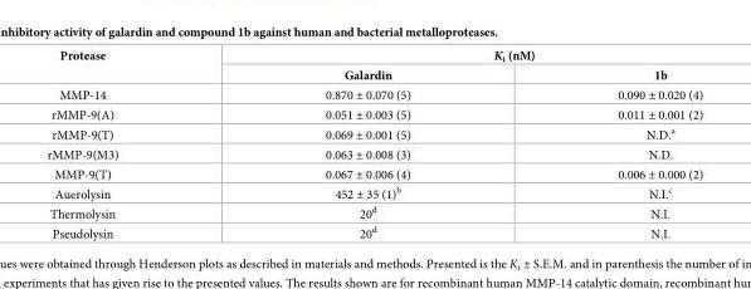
<table><thead><tr><td rowspan="2">Protease</td><td colspan="2">K<sub>i</sub> (nM)</td></tr><tr><td>Galardin</td><td>1b</td></tr></thead><tbody><tr><td>MMP-14</td><td>0.870 ± 0.070 (5)</td><td>0.090 ± 0.020 (4)</td></tr><tr><td>rMMP-9(A)</td><td>0.051 ± 0.003 (5)</td><td>0.011 ± 0.001 (2)</td></tr><tr><td>rMMP-9(T)</td><td>0.069 ± 0.001 (5)</td><td>N.D.<sup>a</sup></td></tr><tr><td>rMMP-9(M3)</td><td>0.063 ± 0.008 (3)</td><td>N.D.</td></tr><tr><td>MMP-9(T)</td><td>0.067 ± 0.006 (4)</td><td>0.006 ± 0.000 (2)</td></tr><tr><td>Auerolysin</td><td>452 ± 35 (1)<sup>b</sup></td><td>N.I.<sup>c</sup></td></tr><tr><td>Thermolysin</td><td>20<sup>d</sup></td><td>N.I.</td></tr><tr><td>Pseudolysin</td><td>20<sup>d</sup></td><td>N.I.</td></tr></tbody></table>